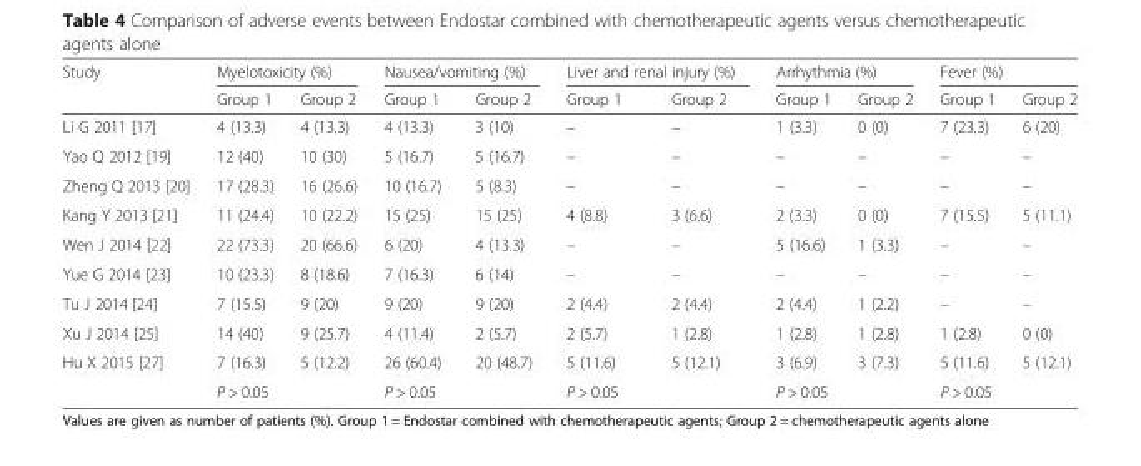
<table><thead><tr><td rowspan="2">Study</td><td colspan="2">Myelotoxicity (%)</td><td colspan="2">Nausea/vomiting (%)</td><td colspan="2">Liver and renal injury (%)</td><td colspan="2">Arrhythmia (%)</td><td colspan="2">Fever (%)</td></tr><tr><td>Group 1</td><td>Group 2</td><td>Group 1</td><td>Group 2</td><td>Group 1</td><td>Group 2</td><td>Group 1</td><td>Group 2</td><td>Group 1</td><td>Group 2</td></tr></thead><tbody><tr><td>Li G 2011 [17]</td><td>4 (13.3)</td><td>4 (13.3)</td><td>4 (13.3)</td><td>3 (10)</td><td>–</td><td>–</td><td>1 (3.3)</td><td>0 (0)</td><td>7 (23.3)</td><td>6 (20)</td></tr><tr><td>Yao Q 2012 [19]</td><td>12 (40)</td><td>10 (30)</td><td>5 (16.7)</td><td>5 (16.7)</td><td>–</td><td>–</td><td>–</td><td>–</td><td>–</td><td>–</td></tr><tr><td>Zheng Q 2013 [20]</td><td>17 (28.3)</td><td>16 (26.6)</td><td>10 (16.7)</td><td>5 (8.3)</td><td>–</td><td>–</td><td>–</td><td>–</td><td>–</td><td>–</td></tr><tr><td>Kang Y 2013 [21]</td><td>11 (24.4)</td><td>10 (22.2)</td><td>15 (25)</td><td>15 (25)</td><td>4 (8.8)</td><td>3 (6.6)</td><td>2 (3.3)</td><td>0 (0)</td><td>7 (15.5)</td><td>5 (11.1)</td></tr><tr><td>Wen J 2014 [22]</td><td>22 (73.3)</td><td>20 (66.6)</td><td>6 (20)</td><td>4 (13.3)</td><td>–</td><td>–</td><td>5 (16.6)</td><td>1 (3.3)</td><td>–</td><td>–</td></tr><tr><td>Yue G 2014 [23]</td><td>10 (23.3)</td><td>8 (18.6)</td><td>7 (16.3)</td><td>6 (14)</td><td>–</td><td>–</td><td>–</td><td>–</td><td>–</td><td>–</td></tr><tr><td>Tu J 2014 [24]</td><td>7 (15.5)</td><td>9 (20)</td><td>9 (20)</td><td>9 (20)</td><td>2 (4.4)</td><td>2 (4.4)</td><td>2 (4.4)</td><td>1 (2.2)</td><td>–</td><td>–</td></tr><tr><td>Xu J 2014 [25]</td><td>14 (40)</td><td>9 (25.7)</td><td>4 (11.4)</td><td>2 (5.7)</td><td>2 (5.7)</td><td>1 (2.8)</td><td>1 (2.8)</td><td>1 (2.8)</td><td>1 (2.8)</td><td>0 (0)</td></tr><tr><td rowspan="2">Hu X 2015 [27]</td><td>7 (16.3)</td><td>5 (12.2)</td><td>26 (60.4)</td><td>20 (48.7)</td><td>5 (11.6)</td><td>5 (12.1)</td><td>3 (6.9)</td><td>3 (7.3)</td><td>5 (11.6)</td><td>5 (12.1)</td></tr><tr><td colspan="2">P &gt; 0.05</td><td colspan="2">P &gt; 0.05</td><td colspan="2">P &gt; 0.05</td><td colspan="2">P &gt; 0.05</td><td colspan="2">P &gt; 0.05</td></tr></tbody></table>